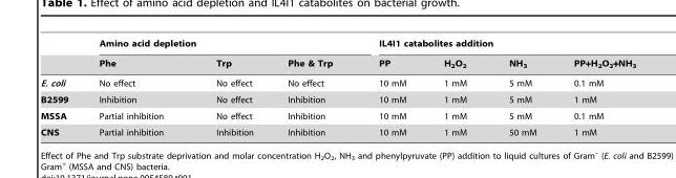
<table><thead><tr><td rowspan="2"></td><td colspan="3">Amino acid depletion</td><td colspan="4">IL4I1 catabolites addition</td></tr><tr><td>Phe</td><td>Trp</td><td>Phe &amp; Trp</td><td>PP</td><td>H<sub>2</sub>O<sub>2</sub></td><td>NH<sub>3</sub></td><td>PP+H<sub>2</sub>O<sub>2</sub>+NH<sub>3</sub></td></tr></thead><tbody><tr><td>E. coli</td><td>No effect</td><td>No effect</td><td>No effect</td><td>10 mM</td><td>1 mM</td><td>5 mM</td><td>0.1 mM</td></tr><tr><td>B2599</td><td>Inhibition</td><td>No effect</td><td>Inhibition</td><td>10 mM</td><td>1 mM</td><td>5 mM</td><td>1 mM</td></tr><tr><td>MSSA</td><td>Partial inhibition</td><td>No effect</td><td>Inhibition</td><td>10 mM</td><td>1 mM</td><td>5 mM</td><td>0.1 mM</td></tr><tr><td>CNS</td><td>Partial inhibition</td><td>Inhibition</td><td>Inhibition</td><td>10 mM</td><td>1 mM</td><td>50 mM</td><td>1 mM</td></tr></tbody></table>